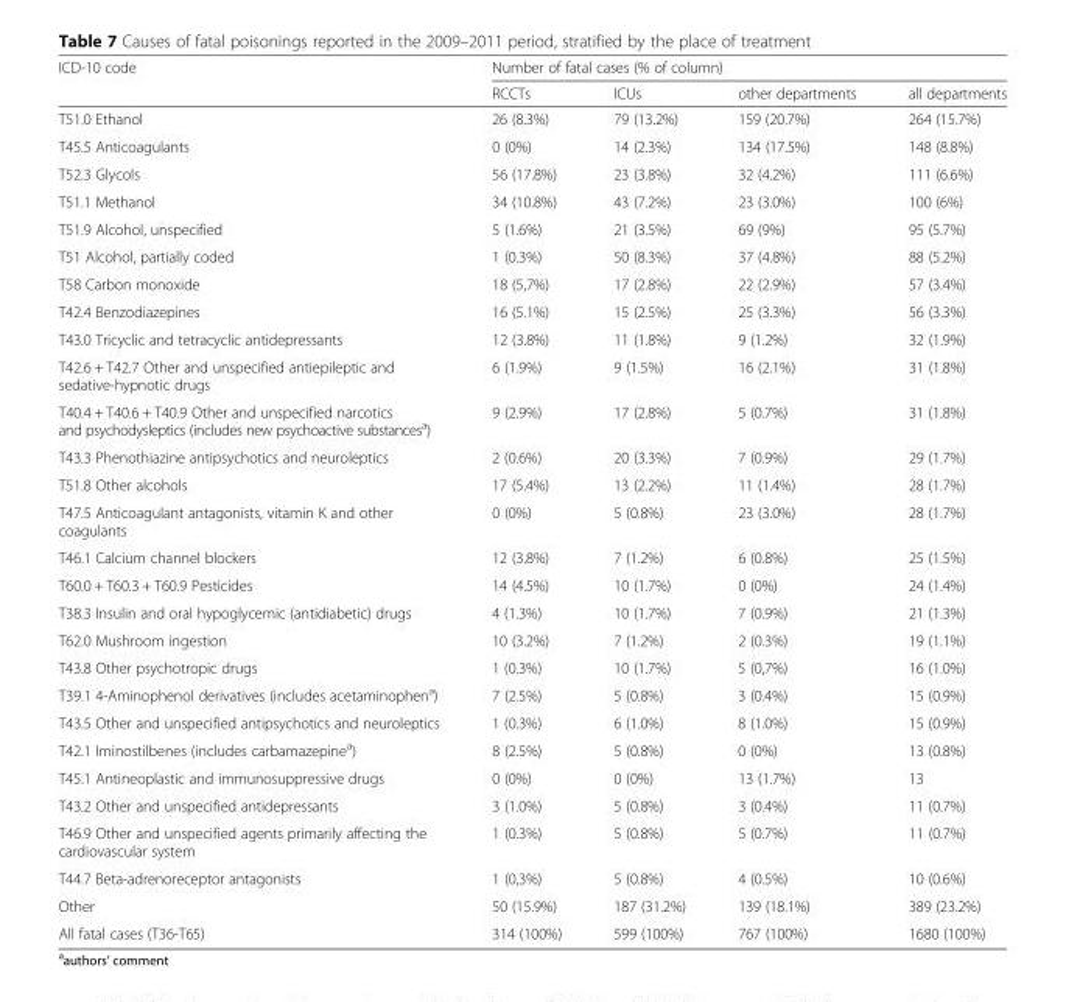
<table><thead><tr><td rowspan="2">ICD-10 code</td><td colspan="4">Number of fatal cases (% of column)</td></tr><tr><td>RCCTs</td><td>ICUs</td><td>other departments</td><td>all departments</td></tr></thead><tbody><tr><td>T51.0 Ethanol</td><td>26 (8.3%)</td><td>79 (13.2%)</td><td>159 (20.7%)</td><td>264 (15.7%)</td></tr><tr><td>T45.5 Anticoagulants</td><td>0 (0%)</td><td>14 (2.3%)</td><td>134 (17.5%)</td><td>148 (8.8%)</td></tr><tr><td>T52.3 Glycols</td><td>56 (17.8%)</td><td>23 (3.8%)</td><td>32 (4.2%)</td><td>111 (6.6%)</td></tr><tr><td>T51.1 Methanol</td><td>34 (10.8%)</td><td>43 (7.2%)</td><td>23 (3.0%)</td><td>100 (6%)</td></tr><tr><td>T51.9 Alcohol, unspecified</td><td>5 (1.6%)</td><td>21 (3.5%)</td><td>69 (9%)</td><td>95 (5.7%)</td></tr><tr><td>T51 Alcohol, partially coded</td><td>1 (0.3%)</td><td>50 (8.3%)</td><td>37 (4.8%)</td><td>88 (5.2%)</td></tr><tr><td>T58 Carbon monoxide</td><td>18 (5,7%)</td><td>17 (2.8%)</td><td>22 (2.9%)</td><td>57 (3.4%)</td></tr><tr><td>T42.4 Benzodiazepines</td><td>16 (5.1%)</td><td>15 (2.5%)</td><td>25 (3.3%)</td><td>56 (3.3%)</td></tr><tr><td>T43.0 Tricyclic and tetracyclic antidepressants</td><td>12 (3.8%)</td><td>11 (1.8%)</td><td>9 (1.2%)</td><td>32 (1.9%)</td></tr><tr><td>T42.6 + T42.7 Other and unspecified antiepileptic and sedative-hypnotic drugs</td><td>6 (1.9%)</td><td>9 (1.5%)</td><td>16 (2.1%)</td><td>31 (1.8%)</td></tr><tr><td>T40.4 + T40.6 + T40.9 Other and unspecified narcotics and psychodysleptics (includes new psychoactive substances<sup>a</sup>)</td><td>9 (2.9%)</td><td>17 (2.8%)</td><td>5 (0.7%)</td><td>31 (1.8%)</td></tr><tr><td>T43.3 Phenothiazine antipsychotics and neuroleptics</td><td>2 (0.6%)</td><td>20 (3.3%)</td><td>7 (0.9%)</td><td>29 (1.7%)</td></tr><tr><td>T51.8 Other alcohols</td><td>17 (5.4%)</td><td>13 (2.2%)</td><td>11 (1.4%)</td><td>28 (1.7%)</td></tr><tr><td>T47.5 Anticoagulant antagonists, vitamin K and other coagulants</td><td>0 (0%)</td><td>5 (0.8%)</td><td>23 (3.0%)</td><td>28 (1.7%)</td></tr><tr><td>T46.1 Calcium channel blockers</td><td>12 (3.8%)</td><td>7 (1.2%)</td><td>6 (0.8%)</td><td>25 (1.5%)</td></tr><tr><td>T60.0 + T60.3 + T60.9 Pesticides</td><td>14 (4.5%)</td><td>10 (1.7%)</td><td>0 (0%)</td><td>24 (1.4%)</td></tr><tr><td>T38.3 Insulin and oral hypoglycemic (antidiabetic) drugs</td><td>4 (1.3%)</td><td>10 (1.7%)</td><td>7 (0.9%)</td><td>21 (1.3%)</td></tr><tr><td>T62.0 Mushroom ingestion</td><td>10 (3.2%)</td><td>7 (1.2%)</td><td>2 (0.3%)</td><td>19 (1.1%)</td></tr><tr><td>T43.8 Other psychotropic drugs</td><td>1 (0.3%)</td><td>10 (1.7%)</td><td>5 (0,7%)</td><td>16 (1.0%)</td></tr><tr><td>T39.1 4-Aminophenol derivatives (includes acetaminophen<sup>a</sup>)</td><td>7 (2.5%)</td><td>5 (0.8%)</td><td>3 (0.4%)</td><td>15 (0.9%)</td></tr><tr><td>T43.5 Other and unspecified antipsychotics and neuroleptics</td><td>1 (0.3%)</td><td>6 (1.0%)</td><td>8 (1.0%)</td><td>15 (0.9%)</td></tr><tr><td>T42.1 Iminostilbenes (includes carbamazepine<sup>a</sup>)</td><td>8 (2.5%)</td><td>5 (0.8%)</td><td>0 (0%)</td><td>13 (0.8%)</td></tr><tr><td>T45.1 Antineoplastic and immunosuppressive drugs</td><td>0 (0%)</td><td>0 (0%)</td><td>13 (1.7%)</td><td>13</td></tr><tr><td>T43.2 Other and unspecified antidepressants</td><td>3 (1.0%)</td><td>5 (0.8%)</td><td>3 (0.4%)</td><td>11 (0.7%)</td></tr><tr><td>T46.9 Other and unspecified agents primarily affecting the cardiovascular system</td><td>1 (0.3%)</td><td>5 (0.8%)</td><td>5 (0.7%)</td><td>11 (0.7%)</td></tr><tr><td>T44.7 Beta-adrenoreceptor antagonists</td><td>1 (0,3%)</td><td>5 (0.8%)</td><td>4 (0.5%)</td><td>10 (0.6%)</td></tr><tr><td>Other</td><td>50 (15.9%)</td><td>187 (31.2%)</td><td>139 (18.1%)</td><td>389 (23.2%)</td></tr><tr><td>All fatal cases (T36-T65)</td><td>314 (100%)</td><td>599 (100%)</td><td>767 (100%)</td><td>1680 (100%)</td></tr></tbody></table>